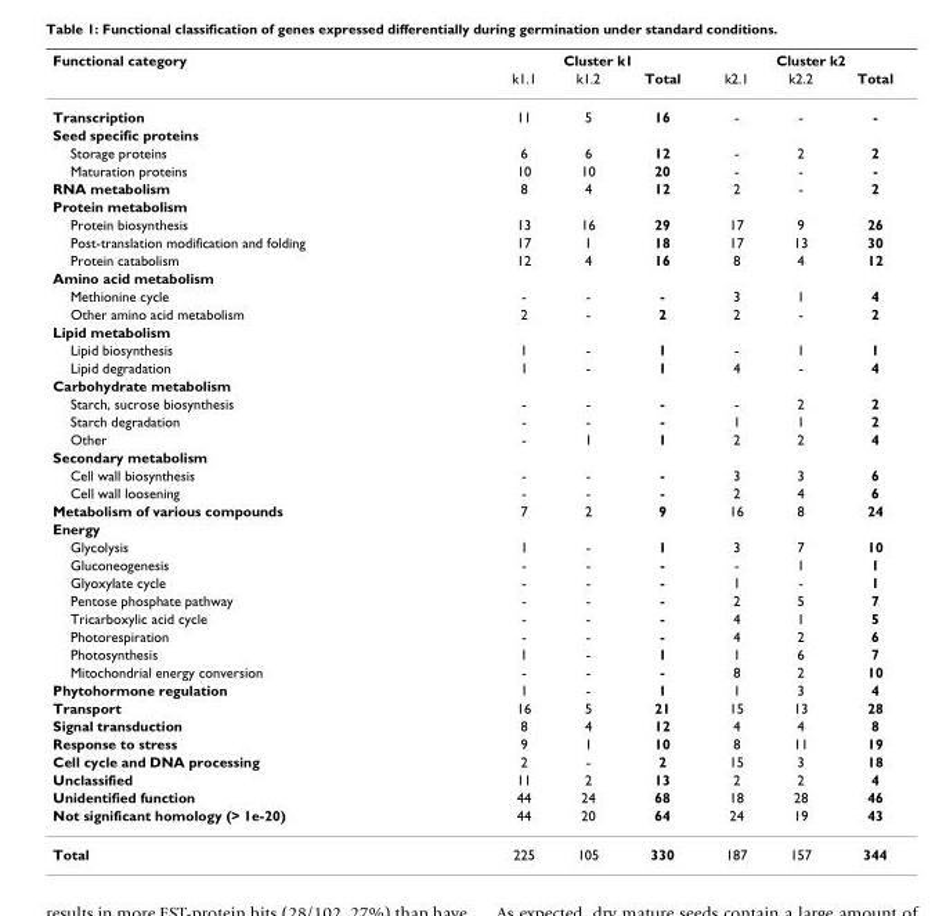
<table><thead><tr><td rowspan="2">Functional category</td><td colspan="3">Cluster k1</td><td colspan="3">Cluster k2</td></tr><tr><td>k1.1</td><td>k1.2</td><td>Total</td><td>k2.1</td><td>k2.2</td><td>Total</td></tr></thead><tbody><tr><td>Transcription</td><td>11</td><td>5</td><td>16</td><td>-</td><td>-</td><td>-</td></tr><tr><td colspan="7">Seed specific proteins</td></tr><tr><td>Storage proteins</td><td>6</td><td>6</td><td>12</td><td>-</td><td>2</td><td>2</td></tr><tr><td>Maturation proteins</td><td>10</td><td>10</td><td>20</td><td>-</td><td>-</td><td>-</td></tr><tr><td>RNA metabolism</td><td>8</td><td>4</td><td>12</td><td>2</td><td>-</td><td>2</td></tr><tr><td colspan="7">Protein metabolism</td></tr><tr><td>Protein biosynthesis</td><td>13</td><td>16</td><td>29</td><td>17</td><td>9</td><td>26</td></tr><tr><td>Post-translation modification and folding</td><td>17</td><td>1</td><td>18</td><td>17</td><td>13</td><td>30</td></tr><tr><td>Protein catabolism</td><td>12</td><td>4</td><td>16</td><td>8</td><td>4</td><td>12</td></tr><tr><td colspan="7">Amino acid metabolism</td></tr><tr><td>Methionine cycle</td><td>-</td><td>-</td><td>-</td><td>3</td><td>1</td><td>4</td></tr><tr><td>Other amino acid metabolism</td><td>2</td><td>-</td><td>2</td><td>2</td><td>-</td><td>2</td></tr><tr><td colspan="7">Lipid metabolism</td></tr><tr><td>Lipid biosynthesis</td><td>1</td><td>-</td><td>1</td><td>-</td><td>1</td><td>1</td></tr><tr><td>Lipid degradation</td><td>1</td><td>-</td><td>1</td><td>4</td><td>-</td><td>4</td></tr><tr><td colspan="7">Carbohydrate metabolism</td></tr><tr><td>Starch, sucrose biosynthesis</td><td>-</td><td>-</td><td>-</td><td>-</td><td>2</td><td>2</td></tr><tr><td>Starch degradation</td><td>-</td><td>-</td><td>-</td><td>1</td><td>1</td><td>2</td></tr><tr><td>Other</td><td>-</td><td>1</td><td>1</td><td>2</td><td>2</td><td>4</td></tr><tr><td colspan="7">Secondary metabolism</td></tr><tr><td>Cell wall biosynthesis</td><td>-</td><td>-</td><td>-</td><td>3</td><td>3</td><td>6</td></tr><tr><td>Cell wall loosening</td><td>-</td><td>-</td><td>-</td><td>2</td><td>4</td><td>6</td></tr><tr><td>Metabolism of various compounds</td><td>7</td><td>2</td><td>9</td><td>16</td><td>8</td><td>24</td></tr><tr><td colspan="7">Energy</td></tr><tr><td>Glycolysis</td><td>1</td><td>-</td><td>1</td><td>3</td><td>7</td><td>10</td></tr><tr><td>Gluconeogenesis</td><td>-</td><td>-</td><td>-</td><td>-</td><td>1</td><td>1</td></tr><tr><td>Glyoxylate cycle</td><td>-</td><td>-</td><td>-</td><td>1</td><td>-</td><td>1</td></tr><tr><td>Pentose phosphate pathway</td><td>-</td><td>-</td><td>-</td><td>2</td><td>5</td><td>7</td></tr><tr><td>Tricarboxylic acid cycle</td><td>-</td><td>-</td><td>-</td><td>4</td><td>1</td><td>5</td></tr><tr><td>Photorespiration</td><td>-</td><td>-</td><td>-</td><td>4</td><td>2</td><td>6</td></tr><tr><td>Photosynthesis</td><td>1</td><td>-</td><td>1</td><td>1</td><td>6</td><td>7</td></tr><tr><td>Mitochondrial energy conversion</td><td>-</td><td>-</td><td>-</td><td>8</td><td>2</td><td>10</td></tr><tr><td>Phytohormone regulation</td><td>1</td><td>-</td><td>1</td><td>1</td><td>3</td><td>4</td></tr><tr><td>Transport</td><td>16</td><td>5</td><td>21</td><td>15</td><td>13</td><td>28</td></tr><tr><td>Signal transduction</td><td>8</td><td>4</td><td>12</td><td>4</td><td>4</td><td>8</td></tr><tr><td>Response to stress</td><td>9</td><td>1</td><td>10</td><td>8</td><td>11</td><td>19</td></tr><tr><td>Cell cycle and DNA processing</td><td>2</td><td>-</td><td>2</td><td>15</td><td>3</td><td>18</td></tr><tr><td>Unclassified</td><td>11</td><td>2</td><td>13</td><td>2</td><td>2</td><td>4</td></tr><tr><td>Unidentified function</td><td>44</td><td>24</td><td>68</td><td>18</td><td>28</td><td>46</td></tr><tr><td>Not significant homology (&gt; 1e-20)</td><td>44</td><td>20</td><td>64</td><td>24</td><td>19</td><td>43</td></tr><tr><td>Total</td><td>225</td><td>105</td><td>330</td><td>187</td><td>157</td><td>344</td></tr></tbody></table>